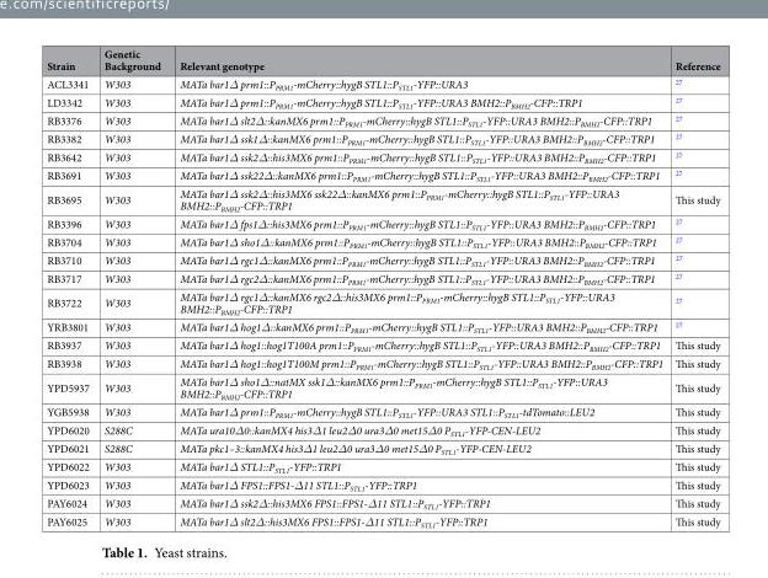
<table><thead><tr><td>Strain</td><td>Genetic Background</td><td>Relevant genotype</td><td>Reference</td></tr></thead><tbody><tr><td>ACL3341</td><td>W303</td><td>MATa bar1Δ prm1::P<sub>PRM1</sub>-mCherry::hygB STL1::P<sub>STL1</sub>-YFP::URA3</td><td><sup>27</sup></td></tr><tr><td>LD3342</td><td>W303</td><td>MATa bar1Δ prm1::P<sub>PRM1</sub>-mCherry::hygB STL1::P<sub>STL1</sub>-YFP::URA3 BMH2::P<sub>BMH2</sub>-CFP::TRP1</td><td><sup>27</sup></td></tr><tr><td>RB3376</td><td>W303</td><td>MATa bar1Δ slt2Δ::kanMX6 prm1::P<sub>PRM1</sub>-mCherry::hygB STL1::P<sub>STL1</sub>-YFP::URA3 BMH2::P<sub>BMH2</sub>-CFP::TRP1</td><td><sup>27</sup></td></tr><tr><td>RB3382</td><td>W303</td><td>MATa bar1Δ ssk1Δ::kanMX6 prm1::P<sub>PRM1</sub>-mCherry::hygB STL1::P<sub>STL1</sub>-YFP::URA3 BMH2::P<sub>BMH2</sub>-CFP::TRP1</td><td><sup>27</sup></td></tr><tr><td>RB3642</td><td>W303</td><td>MATa bar1Δ ssk2Δ::his3MX6 prm1::P<sub>PRM1</sub>-mCherry::hygB STL1::P<sub>STL1</sub>-YFP::URA3 BMH2::P<sub>BMH2</sub>-CFP::TRP1</td><td><sup>27</sup></td></tr><tr><td>RB3691</td><td>W303</td><td>MATa bar1Δ ssk22Δ::kanMX6 prm1::P<sub>PRM1</sub>-mCherry::hygB STL1::P<sub>STL1</sub>-YFP::URA3 BMH2::P<sub>BMH2</sub>-CFP::TRP1</td><td><sup>27</sup></td></tr><tr><td>RB3695</td><td>W303</td><td>MATa bar1Δ ssk2Δ::his3MX6 ssk22Δ::kanMX6 prm1::P<sub>PRM1</sub>-mCherry::hygB STL1::P<sub>STL1</sub>-YFP::URA3 BMH2::P<sub>BMH2</sub>-CFP::TRP1</td><td>This study</td></tr><tr><td>RB3396</td><td>W303</td><td>MATa bar1Δ fps1Δ::his3MX6 prm1::P<sub>PRM1</sub>-mCherry::hygB STL1::P<sub>STL1</sub>-YFP::URA3 BMH2::P<sub>BMH2</sub>-CFP::TRP1</td><td><sup>27</sup></td></tr><tr><td>RB3704</td><td>W303</td><td>MATa bar1Δ sho1Δ::kanMX6 prm1::P<sub>PRM1</sub>-mCherry::hygB STL1::P<sub>STL1</sub>-YFP::URA3 BMH2::P<sub>BMH2</sub>-CFP::TRP1</td><td><sup>27</sup></td></tr><tr><td>RB3710</td><td>W303</td><td>MATa bar1Δ rgc1Δ::kanMX6 prm1::P<sub>PRM1</sub>-mCherry::hygB STL1::P<sub>STL1</sub>-YFP::URA3 BMH2::P<sub>BMH2</sub>-CFP::TRP1</td><td><sup>27</sup></td></tr><tr><td>RB3717</td><td>W303</td><td>MATa bar1Δ rgc2Δ::kanMX6 prm1::P<sub>PRM1</sub>-mCherry::hygB STL1::P<sub>STL1</sub>-YFP::URA3 BMH2::P<sub>BMH2</sub>-CFP::TRP1</td><td><sup>27</sup></td></tr><tr><td>RB3722</td><td>W303</td><td>MATa bar1Δ rgc1Δ::kanMX6 rgc2Δ::his3MX6 prm1::P<sub>PRM1</sub>-mCherry::hygB STL1::P<sub>STL1</sub>-YFP::URA3 BMH2::P<sub>BMH2</sub>-CFP::TRP1</td><td><sup>27</sup></td></tr><tr><td>YRB3801</td><td>W303</td><td>MATa bar1Δ hog1Δ::kanMX6 prm1::P<sub>PRM1</sub>-mCherry::hygB STL1::P<sub>STL1</sub>-YFP::URA3 BMH2::P<sub>BMH2</sub>-CFP::TRP1</td><td><sup>27</sup></td></tr><tr><td>RB3937</td><td>W303</td><td>MATa bar1Δ hog1::hog1T100A prm1::P<sub>PRM1</sub>-mCherry::hygB STL1::P<sub>STL1</sub>-YFP::URA3 BMH2::P<sub>BMH2</sub>-CFP::TRP1</td><td>This study</td></tr><tr><td>RB3938</td><td>W303</td><td>MATa bar1Δ hog1::hog1T100M prm1::P<sub>PRM1</sub>-mCherry::hygB STL1::P<sub>STL1</sub>-YFP::URA3 BMH2::P<sub>BMH2</sub>-CFP::TRP1</td><td>This study</td></tr><tr><td>YPD5937</td><td>W303</td><td>MATa bar1Δ sho1Δ::natMX ssk1Δ::kanMX6 prm1::P<sub>PRM1</sub>-mCherry::hygB STL1::P<sub>STL1</sub>-YFP::URA3 BMH2::P<sub>BMH2</sub>-CFP::TRP1</td><td>This study</td></tr><tr><td>YGB5938</td><td>W303</td><td>MATa bar1Δ prm1::P<sub>PRM1</sub>-mCherry::hygB STL1::P<sub>STL1</sub>-YFP::URA3 STL1::P<sub>STL1</sub>-tdTomato::LEU2</td><td>This study</td></tr><tr><td>YPD6020</td><td>S288C</td><td>MATa ura10Δ0::kanMX4 his3Δ1 leu2Δ0 ura3Δ0 met15Δ0 P<sub>STL1</sub>-YFP-CEN-LEU2</td><td>This study</td></tr><tr><td>YPD6021</td><td>S288C</td><td>MATa pkc1–3::kanMX4 his3Δ1 leu2Δ0 ura3Δ0 met15Δ0 P<sub>STL1</sub>-YFP-CEN-LEU2</td><td>This study</td></tr><tr><td>YPD6022</td><td>W303</td><td>MATa bar1Δ STL1::P<sub>STL1</sub>-YFP::TRP1</td><td>This study</td></tr><tr><td>YPD6023</td><td>W303</td><td>MATa bar1Δ FPS1::FPS1-Δ11 STL1::P<sub>STL1</sub>-YFP::TRP1</td><td>This study</td></tr><tr><td>PAY6024</td><td>W303</td><td>MATa bar1Δ ssk2Δ::his3MX6 FPS1::FPS1-Δ11 STL1::P<sub>STL1</sub>-YFP::TRP1</td><td>This study</td></tr><tr><td>PAY6025</td><td>W303</td><td>MATa bar1Δ slt2Δ::his3MX6 FPS1::FPS1-Δ11 STL1::P<sub>STL1</sub>-YFP::TRP1</td><td>This study</td></tr></tbody></table>